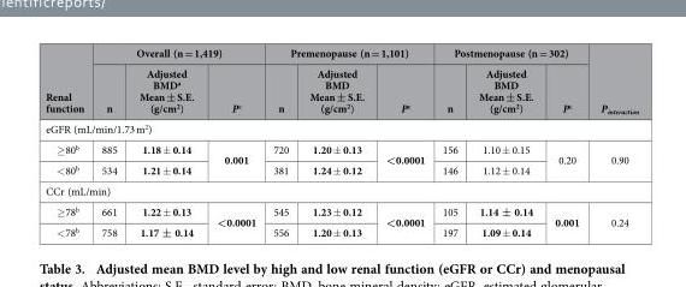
<table><thead><tr><td rowspan="2">Renal function</td><td colspan="3">Overall (n = 1,419)</td><td colspan="3">Premenopause (n = 1,101)</td><td colspan="3">Postmenopause (n = 302)</td><td rowspan="2">P<sub>interaction</sub></td></tr><tr><td>n</td><td>Adjusted BMD<sup>a</sup> Mean ± S.E. (g/cm<sup>2</sup>)</td><td>P<sup>c</sup></td><td>n</td><td>Adjusted BMD Mean ± S.E. (g/cm<sup>2</sup>)</td><td>P<sup>c</sup></td><td>n</td><td>Adjusted BMD Mean ± S.E. (g/cm<sup>2</sup>)</td><td>P<sup>c</sup></td></tr></thead><tbody><tr><td colspan="11">eGFR (mL/min/1.73 m<sup>2</sup>)</td></tr><tr><td>≥ 80<sup>b</sup></td><td>885</td><td>1.18 ± 0.14</td><td rowspan="2">0.001</td><td>720</td><td>1.20 ± 0.13</td><td rowspan="2">&lt;0.0001</td><td>156</td><td>1.10 ± 0.15</td><td rowspan="2">0.20</td><td rowspan="2">0.90</td></tr><tr><td>&lt; 80<sup>b</sup></td><td>534</td><td>1.21 ± 0.14</td><td>381</td><td>1.24 ± 0.12</td><td>146</td><td>1.12 ± 0.14</td></tr><tr><td colspan="11">CCr (mL/min)</td></tr><tr><td>≥ 78<sup>b</sup></td><td>661</td><td>1.22 ± 0.13</td><td rowspan="2">&lt;0.0001</td><td>545</td><td>1.23 ± 0.12</td><td rowspan="2">&lt;0.0001</td><td>105</td><td>1.14 ± 0.14</td><td rowspan="2">0.001</td><td rowspan="2">0.24</td></tr><tr><td>&lt; 78<sup>b</sup></td><td>758</td><td>1.17 ± 0.14</td><td>556</td><td>1.20 ± 0.13</td><td>197</td><td>1.09 ± 0.14</td></tr></tbody></table>